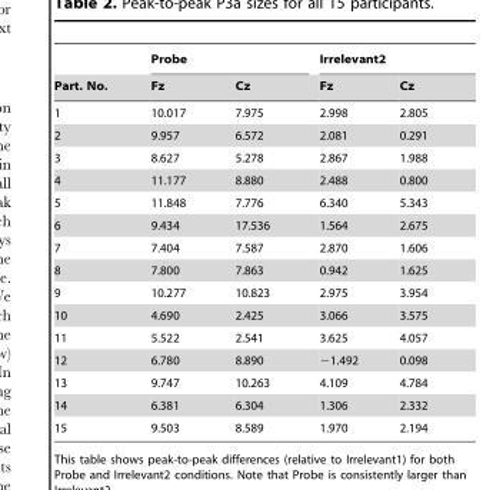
<table><thead><tr><td rowspan="2">Part. No.</td><td colspan="2">Probe</td><td colspan="2">Irrelevant2</td></tr><tr><td>Fz</td><td>Cz</td><td>Fz</td><td>Cz</td></tr></thead><tbody><tr><td>1</td><td>10.017</td><td>7.975</td><td>2.998</td><td>2.805</td></tr><tr><td>2</td><td>9.957</td><td>6.572</td><td>2.081</td><td>0.291</td></tr><tr><td>3</td><td>8.627</td><td>5.278</td><td>2.867</td><td>1.988</td></tr><tr><td>4</td><td>11.177</td><td>8.880</td><td>2.488</td><td>0.800</td></tr><tr><td>5</td><td>11.848</td><td>7.776</td><td>6.340</td><td>5.343</td></tr><tr><td>6</td><td>9.434</td><td>17.536</td><td>1.564</td><td>2.675</td></tr><tr><td>7</td><td>7.404</td><td>7.587</td><td>2.870</td><td>1.606</td></tr><tr><td>8</td><td>7.800</td><td>7.863</td><td>0.942</td><td>1.625</td></tr><tr><td>9</td><td>10.277</td><td>10.823</td><td>2.975</td><td>3.954</td></tr><tr><td>10</td><td>4.690</td><td>2.425</td><td>3.066</td><td>3.575</td></tr><tr><td>11</td><td>5.522</td><td>2.541</td><td>3.625</td><td>4.057</td></tr><tr><td>12</td><td>6.780</td><td>8.890</td><td>−1.492</td><td>0.098</td></tr><tr><td>13</td><td>9.747</td><td>10.263</td><td>4.109</td><td>4.784</td></tr><tr><td>14</td><td>6.381</td><td>6.304</td><td>1.306</td><td>2.332</td></tr><tr><td>15</td><td>9.503</td><td>8.589</td><td>1.970</td><td>2.194</td></tr></tbody></table>